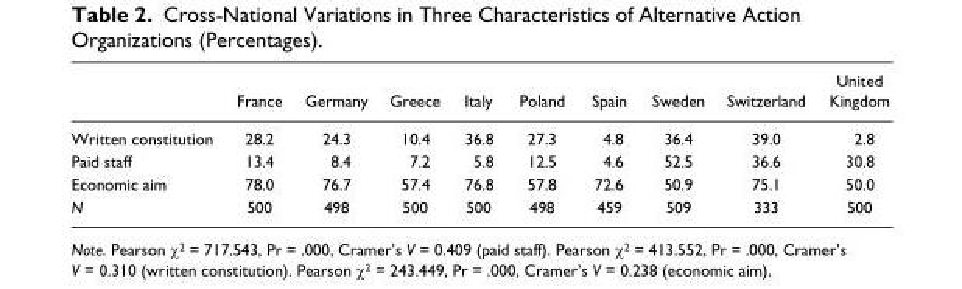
<table><thead><tr><td></td><td>France</td><td>Germany</td><td>Greece</td><td>Italy</td><td>Poland</td><td>Spain</td><td>Sweden</td><td>Switzerland</td><td>United Kingdom</td></tr></thead><tbody><tr><td>Written constitution</td><td>28.2</td><td>24.3</td><td>10.4</td><td>36.8</td><td>27.3</td><td>4.8</td><td>36.4</td><td>39.0</td><td>2.8</td></tr><tr><td>Paid staff</td><td>13.4</td><td>8.4</td><td>7.2</td><td>5.8</td><td>12.5</td><td>4.6</td><td>52.5</td><td>36.6</td><td>30.8</td></tr><tr><td>Economic aim</td><td>78.0</td><td>76.7</td><td>57.4</td><td>76.8</td><td>57.8</td><td>72.6</td><td>50.9</td><td>75.1</td><td>50.0</td></tr><tr><td>N</td><td>500</td><td>498</td><td>500</td><td>500</td><td>498</td><td>459</td><td>509</td><td>333</td><td>500</td></tr></tbody></table>